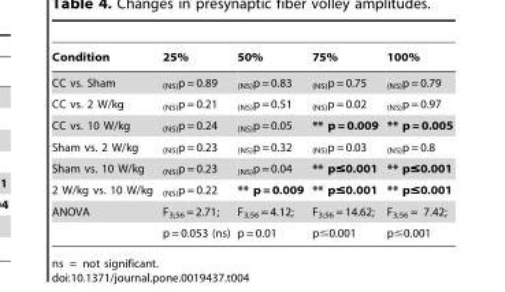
<table><thead><tr><td>Condition</td><td>25%</td><td>50%</td><td>75%</td><td>100%</td></tr></thead><tbody><tr><td>CC vs. Sham</td><td><sub>(NS)</sub>p = 0.89</td><td><sub>(NS)</sub>p = 0.83</td><td><sub>(NS)</sub>p = 0.75</td><td><sub>(NS)</sub>p = 0.79</td></tr><tr><td>CC vs. 2 W/kg</td><td><sub>(NS)</sub>p = 0.21</td><td><sub>(NS)</sub>p = 0.51</td><td><sub>(NS)</sub>p = 0.02</td><td><sub>(NS)</sub>p = 0.97</td></tr><tr><td>CC vs. 10 W/kg</td><td><sub>(NS)</sub>p = 0.24</td><td><sub>(NS)</sub>p = 0.05</td><td>** p = 0.009</td><td>** p = 0.005</td></tr><tr><td>Sham vs. 2 W/kg</td><td><sub>(NS)</sub>p = 0.23</td><td><sub>(NS)</sub>p = 0.32</td><td><sub>(NS)</sub>p = 0.03</td><td><sub>(NS)</sub>p = 0.8</td></tr><tr><td>Sham vs. 10 W/kg</td><td><sub>(NS)</sub>p = 0.23</td><td><sub>(NS)</sub>p = 0.04</td><td>** p≤0.001</td><td>** p≤0.001</td></tr><tr><td>2 W/kg vs. 10 W/kg</td><td><sub>(NS)</sub>p = 0.22</td><td>** p = 0.009</td><td>** p≤0.001</td><td>** p≤0.001</td></tr><tr><td rowspan="2">ANOVA</td><td>F<sub>3;56</sub> = 2.71;</td><td>F<sub>3;56</sub> = 4.12;</td><td>F<sub>3;56</sub> = 14.62;</td><td>F<sub>3;56</sub> = 7.42;</td></tr><tr><td>p = 0.053 (ns)</td><td>p = 0.01</td><td>p≤0.001</td><td>p≤0.001</td></tr></tbody></table>